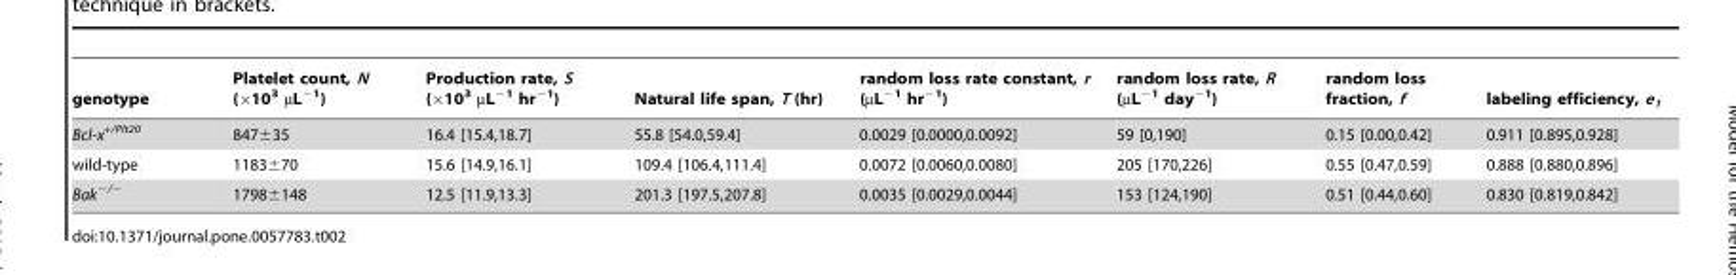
<table><thead><tr><td>genotype</td><td>Platelet count, N (×10<sup>3</sup> µL<sup>−1</sup>)</td><td>Production rate, S (×10<sup>3</sup> µL<sup>−1</sup> hr<sup>−1</sup>)</td><td>Natural life span, T (hr)</td><td>random loss rate constant, r (µL<sup>−1</sup> hr<sup>−1</sup>)</td><td>random loss rate, R (µL<sup>−1</sup> day<sup>−1</sup>)</td><td>random loss fraction, f</td><td>labeling efficiency, e<sub>1</sub></td></tr></thead><tbody><tr><td>Bcl-x<sup>+/Plt20</sup></td><td>847±35</td><td>16.4 [15.4,18.7]</td><td>55.8 [54.0,59.4]</td><td>0.0029 [0.0000,0.0092]</td><td>59 [0,190]</td><td>0.15 [0.00,0.42]</td><td>0.911 [0.895,0.928]</td></tr><tr><td>wild-type</td><td>1183±70</td><td>15.6 [14.9,16.1]</td><td>109.4 [106.4,111.4]</td><td>0.0072 [0.0060,0.0080]</td><td>205 [170,226]</td><td>0.55 [0.47,0.59]</td><td>0.888 [0.880,0.896]</td></tr><tr><td>Bak<sup>−/−</sup></td><td>1798±148</td><td>12.5 [11.9,13.3]</td><td>201.3 [197.5,207.8]</td><td>0.0035 [0.0029,0.0044]</td><td>153 [124,190]</td><td>0.51 [0.44,0.60]</td><td>0.830 [0.819,0.842]</td></tr></tbody></table>